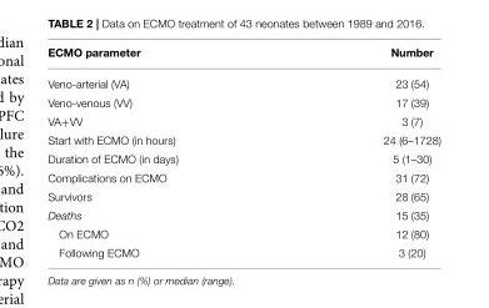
<table><thead><tr><td>ECMO parameter</td><td>Number</td></tr></thead><tbody><tr><td>Veno-arterial (VA)</td><td>23 (54)</td></tr><tr><td>Veno-venous (VV)</td><td>17 (39)</td></tr><tr><td>VA+VV</td><td>3 (7)</td></tr><tr><td>Start with ECMO (in hours)</td><td>24 (6–1728)</td></tr><tr><td>Duration of ECMO (in days)</td><td>5 (1–30)</td></tr><tr><td>Complications on ECMO</td><td>31 (72)</td></tr><tr><td>Survivors</td><td>28 (65)</td></tr><tr><td>Deaths</td><td>15 (35)</td></tr><tr><td>On ECMO</td><td>12 (80)</td></tr><tr><td>Following ECMO</td><td>3 (20)</td></tr></tbody></table>